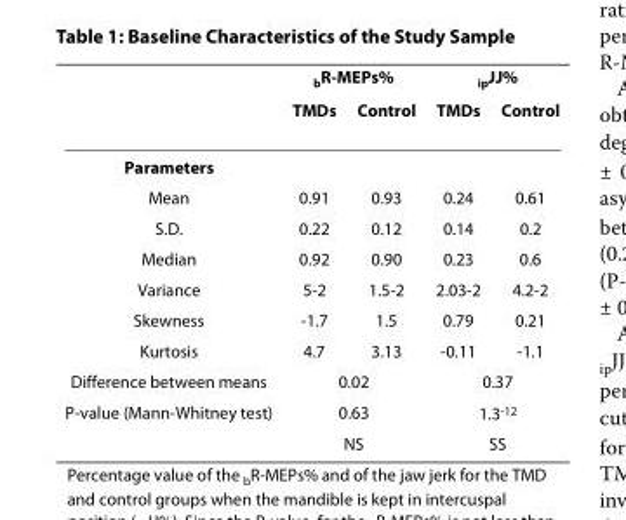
<table><thead><tr><td rowspan="2"></td><td colspan="2"><sub>b</sub>R-MEPs%</td><td colspan="2"><sub>ip</sub>JJ%</td></tr><tr><td>TMDs</td><td>Control</td><td>TMDs</td><td>Control</td></tr></thead><tbody><tr><td colspan="5">Parameters</td></tr><tr><td>Mean</td><td>0.91</td><td>0.93</td><td>0.24</td><td>0.61</td></tr><tr><td>S.D.</td><td>0.22</td><td>0.12</td><td>0.14</td><td>0.2</td></tr><tr><td>Median</td><td>0.92</td><td>0.90</td><td>0.23</td><td>0.6</td></tr><tr><td>Variance</td><td>5-2</td><td>1.5-2</td><td>2.03-2</td><td>4.2-2</td></tr><tr><td>Skewness</td><td>-1.7</td><td>1.5</td><td>0.79</td><td>0.21</td></tr><tr><td>Kurtosis</td><td>4.7</td><td>3.13</td><td>-0.11</td><td>-1.1</td></tr><tr><td>Difference between means</td><td colspan="2">0.02</td><td colspan="2">0.37</td></tr><tr><td rowspan="2">P-value (Mann-Whitney test)</td><td colspan="2">0.63</td><td colspan="2">1.3<sup>-12</sup></td></tr><tr><td colspan="2">NS</td><td colspan="2">SS</td></tr></tbody></table>